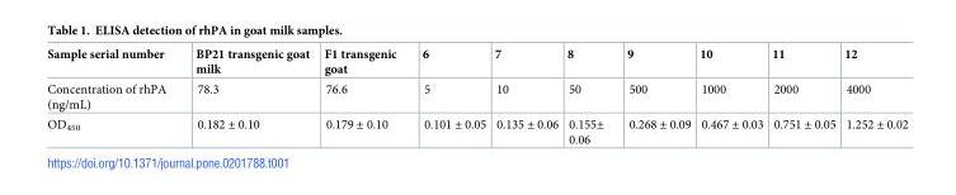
<table><thead><tr><td>Sample serial number</td><td>BP21 transgenic goat milk</td><td>F1 transgenic goat</td><td>6</td><td>7</td><td>8</td><td>9</td><td>10</td><td>11</td><td>12</td></tr></thead><tbody><tr><td>Concentration of rhPA (ng/mL)</td><td>78.3</td><td>76.6</td><td>5</td><td>10</td><td>50</td><td>500</td><td>1000</td><td>2000</td><td>4000</td></tr><tr><td>OD<sub>450</sub></td><td>0.182 ± 0.10</td><td>0.179 ± 0.10</td><td>0.101 ± 0.05</td><td>0.135 ± 0.06</td><td>0.155± 0.06</td><td>0.268 ± 0.09</td><td>0.467 ± 0.03</td><td>0.751 ± 0.05</td><td>1.252 ± 0.02</td></tr></tbody></table>